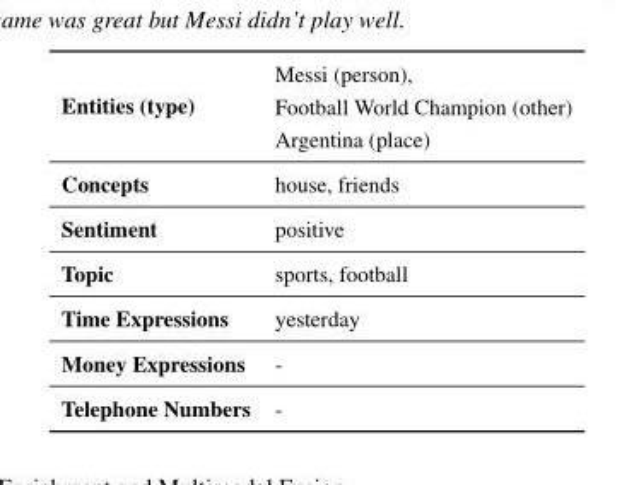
<table><tbody><tr><td rowspan="3">Entities (type)</td><td>Messi (person),</td></tr><tr><td>Football World Champion (other)</td></tr><tr><td>Argentina (place)</td></tr><tr><td>Concepts</td><td>house, friends</td></tr><tr><td>Sentiment</td><td>positive</td></tr><tr><td>Topic</td><td>sports, football</td></tr><tr><td>Time Expressions</td><td>yesterday</td></tr><tr><td>Money Expressions</td><td>-</td></tr><tr><td>Telephone Numbers</td><td>-</td></tr></tbody></table>